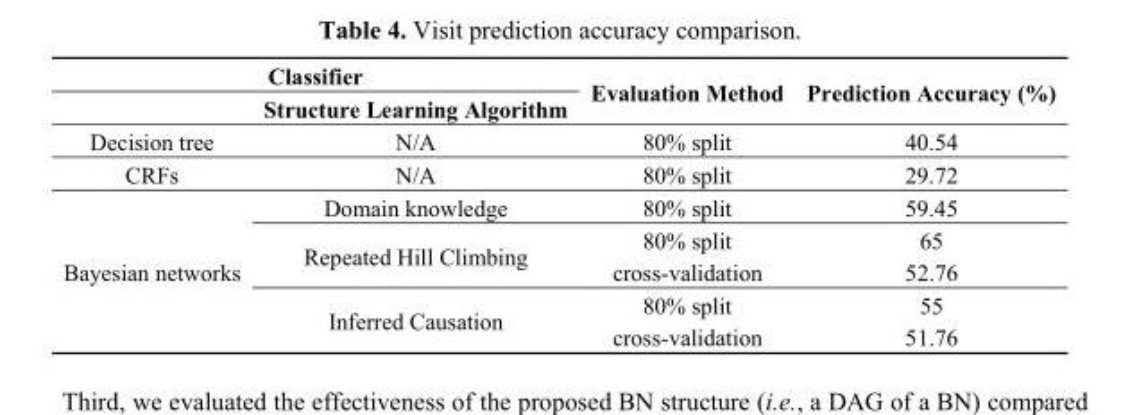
<table><thead><tr><td colspan="2">Classifier</td><td rowspan="2">Evaluation Method</td><td rowspan="2">Prediction Accuracy (%)</td></tr><tr><td></td><td>Structure Learning Algorithm</td></tr></thead><tbody><tr><td>Decision tree</td><td>N/A</td><td>80% split</td><td>40.54</td></tr><tr><td>CRFs</td><td>N/A</td><td>80% split</td><td>29.72</td></tr><tr><td rowspan="5">Bayesian networks</td><td>Domain knowledge</td><td>80% split</td><td>59.45</td></tr><tr><td rowspan="2">Repeated Hill Climbing</td><td>80% split</td><td>65</td></tr><tr><td>cross-validation</td><td>52.76</td></tr><tr><td rowspan="2">Inferred Causation</td><td>80% split</td><td>55</td></tr><tr><td>cross-validation</td><td>51.76</td></tr></tbody></table>